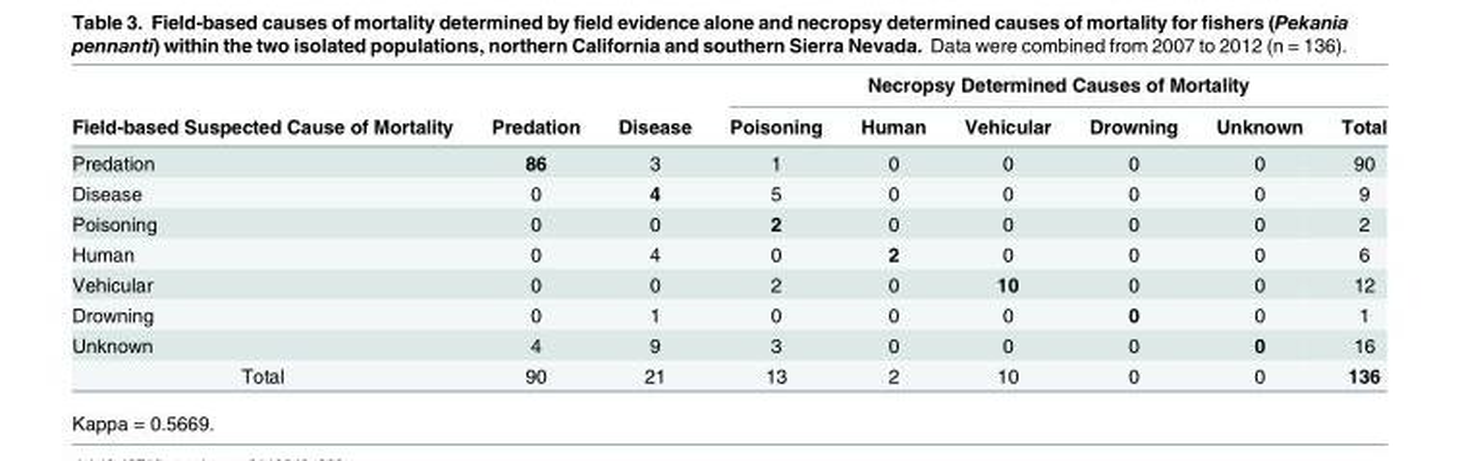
<table><thead><tr><td rowspan="2">Field-based Suspected Cause of Mortality</td><td rowspan="2">Predation</td><td rowspan="2">Disease</td><td colspan="6">Necropsy Determined Causes of Mortality</td></tr><tr><td>Poisoning</td><td>Human</td><td>Vehicular</td><td>Drowning</td><td>Unknown</td><td>Total</td></tr></thead><tbody><tr><td>Predation</td><td>86</td><td>3</td><td>1</td><td>0</td><td>0</td><td>0</td><td>0</td><td>90</td></tr><tr><td>Disease</td><td>0</td><td>4</td><td>5</td><td>0</td><td>0</td><td>0</td><td>0</td><td>9</td></tr><tr><td>Poisoning</td><td>0</td><td>0</td><td>2</td><td>0</td><td>0</td><td>0</td><td>0</td><td>2</td></tr><tr><td>Human</td><td>0</td><td>4</td><td>0</td><td>2</td><td>0</td><td>0</td><td>0</td><td>6</td></tr><tr><td>Vehicular</td><td>0</td><td>0</td><td>2</td><td>0</td><td>10</td><td>0</td><td>0</td><td>12</td></tr><tr><td>Drowning</td><td>0</td><td>1</td><td>0</td><td>0</td><td>0</td><td>0</td><td>0</td><td>1</td></tr><tr><td>Unknown</td><td>4</td><td>9</td><td>3</td><td>0</td><td>0</td><td>0</td><td>0</td><td>16</td></tr><tr><td>Total</td><td>90</td><td>21</td><td>13</td><td>2</td><td>10</td><td>0</td><td>0</td><td>136</td></tr></tbody></table>